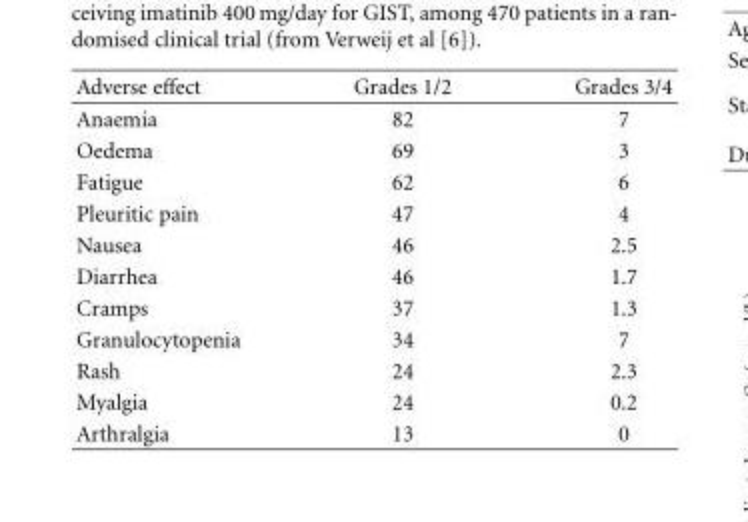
<table><tbody><tr><td>Adverse effect</td><td>Grades 1/2</td><td>Grades 3/4</td></tr><tr><td>Anaemia</td><td>82</td><td>7</td></tr><tr><td>Oedema</td><td>69</td><td>3</td></tr><tr><td>Fatigue</td><td>62</td><td>6</td></tr><tr><td>Pleuritic pain</td><td>47</td><td>4</td></tr><tr><td>Nausea</td><td>46</td><td>2.5</td></tr><tr><td>Diarrhea</td><td>46</td><td>1.7</td></tr><tr><td>Cramps</td><td>37</td><td>1.3</td></tr><tr><td>Granulocytopenia</td><td>34</td><td>7</td></tr><tr><td>Rash</td><td>24</td><td>2.3</td></tr><tr><td>Myalgia</td><td>24</td><td>0.2</td></tr><tr><td>Arthralgia</td><td>13</td><td>0</td></tr></tbody></table>